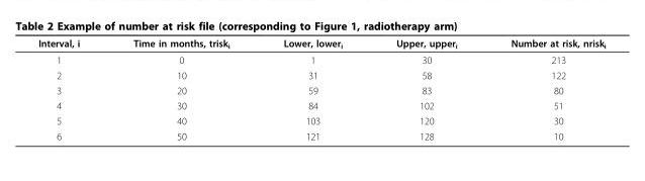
<table><thead><tr><td>Interval, i</td><td>Time in months, trisk<sub>i</sub></td><td>Lower, lower<sub>i</sub></td><td>Upper, upper<sub>i</sub></td><td>Number at risk, nrisk<sub>i</sub></td></tr></thead><tbody><tr><td>1</td><td>0</td><td>1</td><td>30</td><td>213</td></tr><tr><td>2</td><td>10</td><td>31</td><td>58</td><td>122</td></tr><tr><td>3</td><td>20</td><td>59</td><td>83</td><td>80</td></tr><tr><td>4</td><td>30</td><td>84</td><td>102</td><td>51</td></tr><tr><td>5</td><td>40</td><td>103</td><td>120</td><td>30</td></tr><tr><td>6</td><td>50</td><td>121</td><td>128</td><td>10</td></tr></tbody></table>